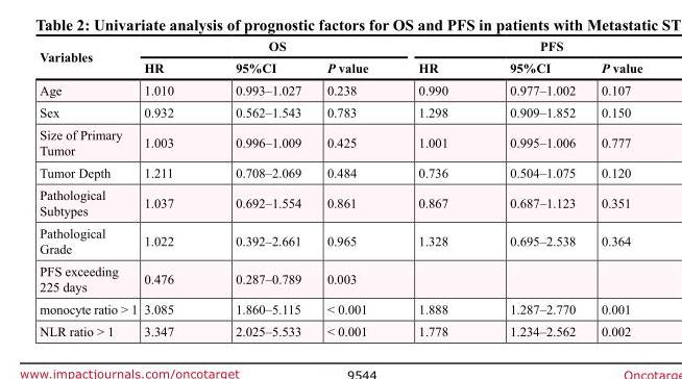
<table><thead><tr><td rowspan="2">Variables</td><td colspan="3">OS</td><td colspan="3">PFS</td></tr><tr><td>HR</td><td>95%CI</td><td>P value</td><td>HR</td><td>95%CI</td><td>P value</td></tr></thead><tbody><tr><td>Age</td><td>1.010</td><td>0.993–1.027</td><td>0.238</td><td>0.990</td><td>0.977–1.002</td><td>0.107</td></tr><tr><td>Sex</td><td>0.932</td><td>0.562–1.543</td><td>0.783</td><td>1.298</td><td>0.909–1.852</td><td>0.150</td></tr><tr><td>Size of Primary Tumor</td><td>1.003</td><td>0.996–1.009</td><td>0.425</td><td>1.001</td><td>0.995–1.006</td><td>0.777</td></tr><tr><td>Tumor Depth</td><td>1.211</td><td>0.708–2.069</td><td>0.484</td><td>0.736</td><td>0.504–1.075</td><td>0.120</td></tr><tr><td>Pathological Subtypes</td><td>1.037</td><td>0.692–1.554</td><td>0.861</td><td>0.867</td><td>0.687–1.123</td><td>0.351</td></tr><tr><td>Pathological Grade</td><td>1.022</td><td>0.392–2.661</td><td>0.965</td><td>1.328</td><td>0.695–2.538</td><td>0.364</td></tr><tr><td>PFS exceeding 225 days</td><td>0.476</td><td>0.287–0.789</td><td>0.003</td><td></td><td></td><td></td></tr><tr><td>monocyte ratio &gt; 1</td><td>3.085</td><td>1.860–5.115</td><td>&lt; 0.001</td><td>1.888</td><td>1.287–2.770</td><td>0.001</td></tr><tr><td>NLR ratio &gt; 1</td><td>3.347</td><td>2.025–5.533</td><td>&lt; 0.001</td><td>1.778</td><td>1.234–2.562</td><td>0.002</td></tr></tbody></table>